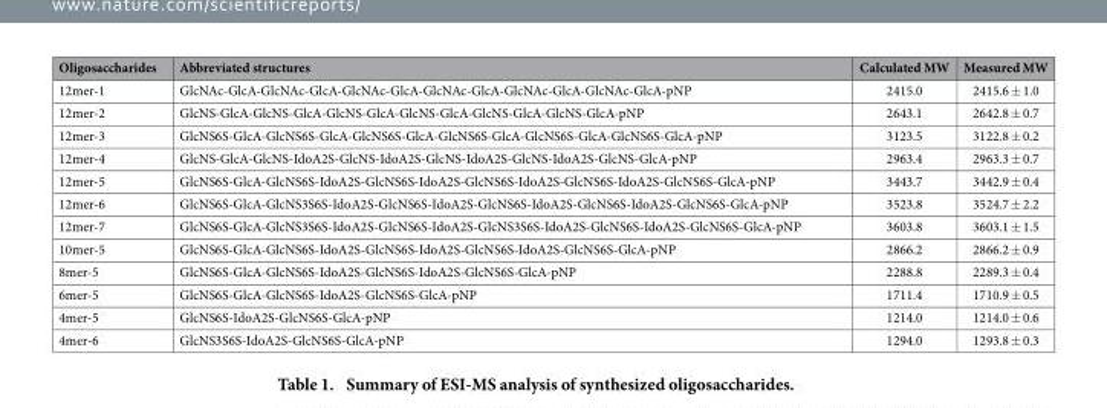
<table><thead><tr><td>Oligosaccharides</td><td>Abbreviated structures</td><td>Calculated MW</td><td>Measured MW</td></tr></thead><tbody><tr><td>12mer-1</td><td>GlcNAc-GlcA-GlcNAc-GlcA-GlcNAc-GlcA-GlcNAc-GlcA-GlcNAc-GlcA-GlcNAc-GlcA-pNP</td><td>2415.0</td><td>2415.6 ± 1.0</td></tr><tr><td>12mer-2</td><td>GlcNS-GlcA-GlcNS-GlcA-GlcNS-GlcA-GlcNS-GlcA-GlcNS-GlcA-GlcNS-GlcA-pNP</td><td>2643.1</td><td>2642.8 ± 0.7</td></tr><tr><td>12mer-3</td><td>GlcNS6S-GlcA-GlcNS6S-GlcA-GlcNS6S-GlcA-GlcNS6S-GlcA-GlcNS6S-GlcA-GlcNS6S-GlcA-pNP</td><td>3123.5</td><td>3122.8 ± 0.2</td></tr><tr><td>12mer-4</td><td>GlcNS-GlcA-GlcNS-IdoA2S-GlcNS-IdoA2S-GlcNS-IdoA2S-GlcNS-IdoA2S-GlcNS-GlcA-pNP</td><td>2963.4</td><td>2963.3 ± 0.7</td></tr><tr><td>12mer-5</td><td>GlcNS6S-GlcA-GlcNS6S-IdoA2S-GlcNS6S-IdoA2S-GlcNS6S-IdoA2S-GlcNS6S-IdoA2S-GlcNS6S-GlcA-pNP</td><td>3443.7</td><td>3442.9 ± 0.4</td></tr><tr><td>12mer-6</td><td>GlcNS6S-GlcA-GlcNS3S6S-IdoA2S-GlcNS6S-IdoA2S-GlcNS6S-IdoA2S-GlcNS6S-IdoA2S-GlcNS6S-GlcA-pNP</td><td>3523.8</td><td>3524.7 ± 2.2</td></tr><tr><td>12mer-7</td><td>GlcNS6S-GlcA-GlcNS3S6S-IdoA2S-GlcNS6S-IdoA2S-GlcNS3S6S-IdoA2S-GlcNS6S-IdoA2S-GlcNS6S-GlcA-pNP</td><td>3603.8</td><td>3603.1 ± 1.5</td></tr><tr><td>10mer-5</td><td>GlcNS6S-GlcA-GlcNS6S-IdoA2S-GlcNS6S-IdoA2S-GlcNS6S-IdoA2S-GlcNS6S-GlcA-pNP</td><td>2866.2</td><td>2866.2 ± 0.9</td></tr><tr><td>8mer-5</td><td>GlcNS6S-GlcA-GlcNS6S-IdoA2S-GlcNS6S-IdoA2S-GlcNS6S-GlcA-pNP</td><td>2288.8</td><td>2289.3 ± 0.4</td></tr><tr><td>6mer-5</td><td>GlcNS6S-GlcA-GlcNS6S-IdoA2S-GlcNS6S-GlcA-pNP</td><td>1711.4</td><td>1710.9 ± 0.5</td></tr><tr><td>4mer-5</td><td>GlcNS6S-IdoA2S-GlcNS6S-GlcA-pNP</td><td>1214.0</td><td>1214.0 ± 0.6</td></tr><tr><td>4mer-6</td><td>GlcNS3S6S-IdoA2S-GlcNS6S-GlcA-pNP</td><td>1294.0</td><td>1293.8 ± 0.3</td></tr></tbody></table>